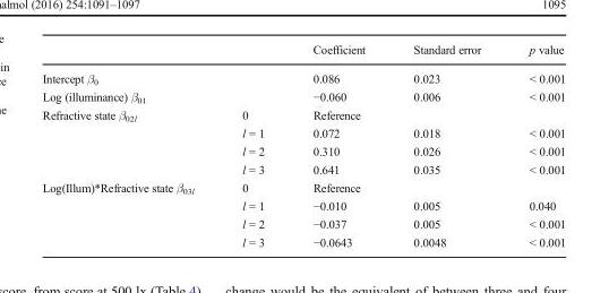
<table><thead><tr><td></td><td></td><td>Coefficient</td><td>Standard error</td><td>p value</td></tr></thead><tbody><tr><td colspan="2">Intercept β<sub>0</sub></td><td>0.086</td><td>0.023</td><td>&lt; 0.001</td></tr><tr><td colspan="2">Log (illuminance) β<sub>01</sub></td><td>−0.060</td><td>0.006</td><td>&lt; 0.001</td></tr><tr><td rowspan="4">Refractive state β<sub>02l</sub></td><td>0</td><td colspan="3">Reference</td></tr><tr><td>l = 1</td><td>0.072</td><td>0.018</td><td>&lt; 0.001</td></tr><tr><td>l = 2</td><td>0.310</td><td>0.026</td><td>&lt; 0.001</td></tr><tr><td>l = 3</td><td>0.641</td><td>0.035</td><td>&lt; 0.001</td></tr><tr><td rowspan="4">Log(Illum)*Refractive state β<sub>03l</sub></td><td>0</td><td colspan="3">Reference</td></tr><tr><td>l = 1</td><td>−0.010</td><td>0.005</td><td>0.040</td></tr><tr><td>l = 2</td><td>−0.037</td><td>0.005</td><td>&lt; 0.001</td></tr><tr><td>l = 3</td><td>−0.0643</td><td>0.0048</td><td>&lt; 0.001</td></tr></tbody></table>